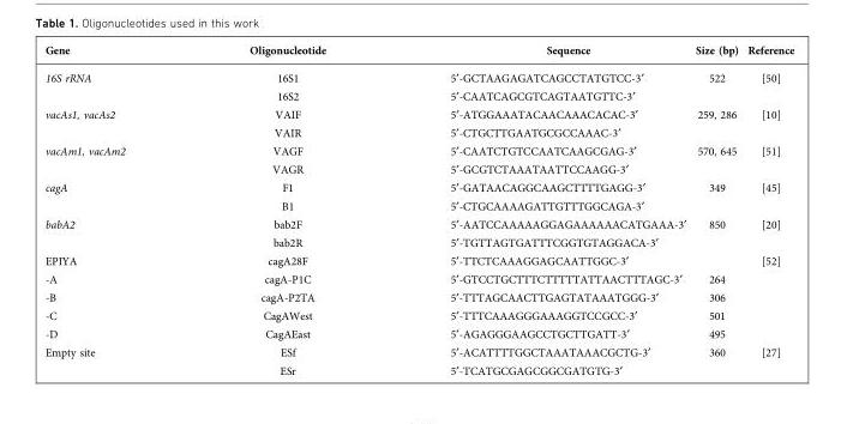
<table><thead><tr><td>Gene</td><td>Oligonucleotide</td><td>Sequence</td><td>Size (bp)</td><td>Reference</td></tr></thead><tbody><tr><td rowspan="2">16S rRNA</td><td>16S1</td><td>5¢-GCTAAGAGATCAGCCTATGTCC-3¢</td><td rowspan="2">522</td><td rowspan="2">[50]</td></tr><tr><td>16S2</td><td>5¢-CAATCAGCGTCAGTAATGTTC-3¢</td></tr><tr><td rowspan="2">vacAs1, vacAs2</td><td>VAIF</td><td>5¢-ATGGAAATACAACAAACACAC-3¢</td><td rowspan="2">259, 286</td><td rowspan="2">[10]</td></tr><tr><td>VAIR</td><td>5¢-CTGCTTGAATGCGCCAAAC-3¢</td></tr><tr><td rowspan="2">vacAm1, vacAm2</td><td>VAGF</td><td>5¢-CAATCTGTCCAATCAAGCGAG-3¢</td><td rowspan="2">570, 645</td><td rowspan="2">[51]</td></tr><tr><td>VAGR</td><td>5¢-GCGTCTAAATAATTCCAAGG-3¢</td></tr><tr><td rowspan="2">cagA</td><td>F1</td><td>5¢-GATAACAGGCAAGCTTTTGAGG-3¢</td><td rowspan="2">349</td><td rowspan="2">[45]</td></tr><tr><td>B1</td><td>5¢-CTGCAAAAGATTGTTTGGCAGA-3¢</td></tr><tr><td rowspan="2">babA2</td><td>bab2F</td><td>5¢-AATCCAAAAAGGAGAAAAAACATGAAA-3¢</td><td rowspan="2">850</td><td rowspan="2">[20]</td></tr><tr><td>bab2R</td><td>5¢-TGTTAGTGATTTCGGTGTAGGACA-3¢</td></tr><tr><td>EPIYA</td><td>cagA28F</td><td>5¢-TTCTCAAAGGAGCAATTGGC-3¢</td><td></td><td rowspan="5">[52]</td></tr><tr><td>-A</td><td>cagA-P1C</td><td>5¢-GTCCTGCTTTCTTTTTATTAACTTTAGC-3¢</td><td>264</td></tr><tr><td>-B</td><td>cagA-P2TA</td><td>5¢-TTTAGCAACTTGAGTATAAATGGG-3¢</td><td>306</td></tr><tr><td>-C</td><td>CagAWest</td><td>5¢-TTTCAAAGGGAAAGGTCCGCC-3¢</td><td>501</td></tr><tr><td>-D</td><td>CagAEast</td><td>5¢-AGAGGGAAGCCTGCTTGATT-3¢</td><td>495</td></tr><tr><td rowspan="2">Empty site</td><td>ESf</td><td>5¢-ACATTTTGGCTAAATAAACGCTG-3¢</td><td rowspan="2">360</td><td rowspan="2">[27]</td></tr><tr><td>ESr</td><td>5¢-TCATGCGAGCGGCGATGTG-3¢</td></tr></tbody></table>